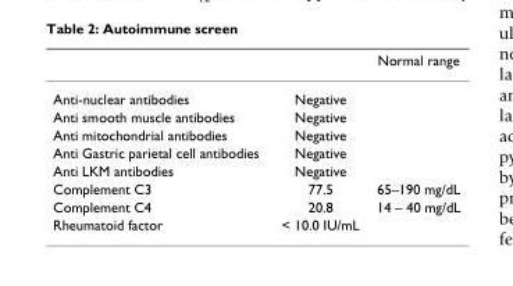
<table><thead><tr><td></td><td></td><td>Normal range</td></tr></thead><tbody><tr><td>Anti-nuclear antibodies</td><td>Negative</td><td></td></tr><tr><td>Anti smooth muscle antibodies</td><td>Negative</td><td></td></tr><tr><td>Anti mitochondrial antibodies</td><td>Negative</td><td></td></tr><tr><td>Anti Gastric parietal cell antibodies</td><td>Negative</td><td></td></tr><tr><td>Anti LKM antibodies</td><td>Negative</td><td></td></tr><tr><td>Complement C3</td><td>77.5</td><td>65–190 mg/dL</td></tr><tr><td>Complement C4</td><td>20.8</td><td>14 – 40 mg/dL</td></tr><tr><td>Rheumatoid factor</td><td>&lt; 10.0 IU/mL</td><td></td></tr></tbody></table>